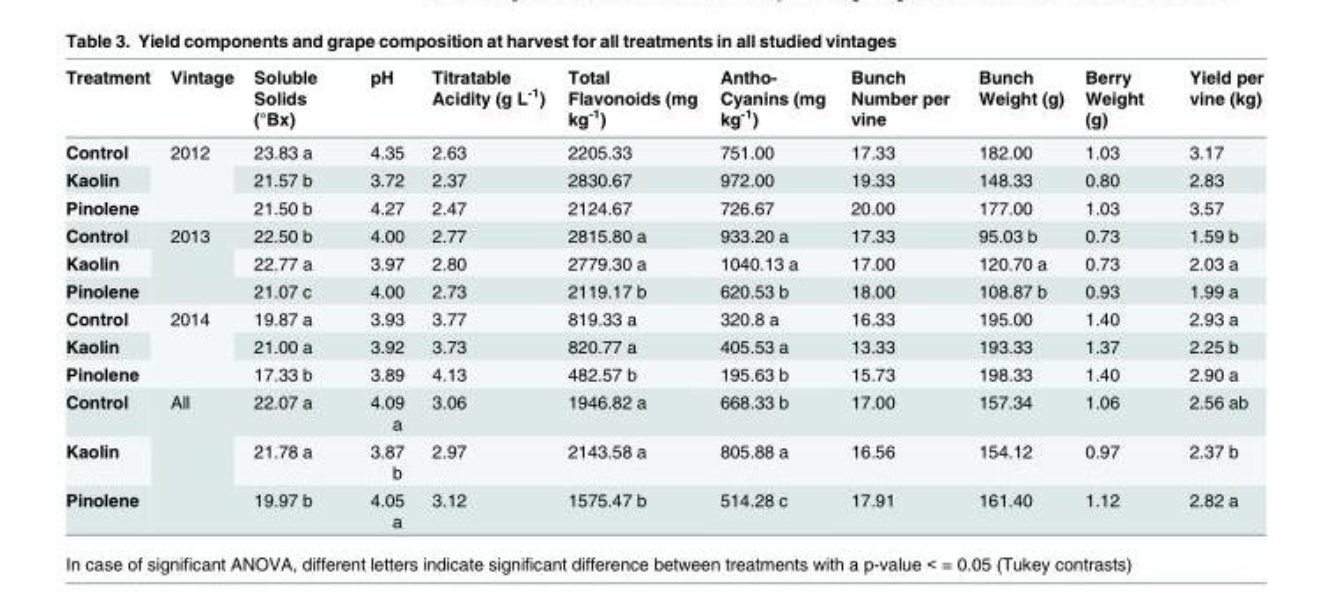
<table><thead><tr><td>Treatment</td><td>Vintage</td><td>Soluble Solids (°Bx)</td><td>pH</td><td>Titratable Acidity (g L<sup>-1</sup>)</td><td>Total Flavonoids (mg kg<sup>-1</sup>)</td><td>Antho- Cyanins (mg kg<sup>-1</sup>)</td><td>Bunch Number per vine</td><td>Bunch Weight (g)</td><td>Berry Weight (g)</td><td>Yield per vine (kg)</td></tr></thead><tbody><tr><td>Control</td><td rowspan="3">2012</td><td>23.83 a</td><td>4.35</td><td>2.63</td><td>2205.33</td><td>751.00</td><td>17.33</td><td>182.00</td><td>1.03</td><td>3.17</td></tr><tr><td>Kaolin</td><td>21.57 b</td><td>3.72</td><td>2.37</td><td>2830.67</td><td>972.00</td><td>19.33</td><td>148.33</td><td>0.80</td><td>2.83</td></tr><tr><td>Pinolene</td><td>21.50 b</td><td>4.27</td><td>2.47</td><td>2124.67</td><td>726.67</td><td>20.00</td><td>177.00</td><td>1.03</td><td>3.57</td></tr><tr><td>Control</td><td rowspan="3">2013</td><td>22.50 b</td><td>4.00</td><td>2.77</td><td>2815.80 a</td><td>933.20 a</td><td>17.33</td><td>95.03 b</td><td>0.73</td><td>1.59 b</td></tr><tr><td>Kaolin</td><td>22.77 a</td><td>3.97</td><td>2.80</td><td>2779.30 a</td><td>1040.13 a</td><td>17.00</td><td>120.70 a</td><td>0.73</td><td>2.03 a</td></tr><tr><td>Pinolene</td><td>21.07 c</td><td>4.00</td><td>2.73</td><td>2119.17 b</td><td>620.53 b</td><td>18.00</td><td>108.87 b</td><td>0.93</td><td>1.99 a</td></tr><tr><td>Control</td><td rowspan="3">2014</td><td>19.87 a</td><td>3.93</td><td>3.77</td><td>819.33 a</td><td>320.8 a</td><td>16.33</td><td>195.00</td><td>1.40</td><td>2.93 a</td></tr><tr><td>Kaolin</td><td>21.00 a</td><td>3.92</td><td>3.73</td><td>820.77 a</td><td>405.53 a</td><td>13.33</td><td>193.33</td><td>1.37</td><td>2.25 b</td></tr><tr><td>Pinolene</td><td>17.33 b</td><td>3.89</td><td>4.13</td><td>482.57 b</td><td>195.63 b</td><td>15.73</td><td>198.33</td><td>1.40</td><td>2.90 a</td></tr><tr><td>Control</td><td rowspan="3">All</td><td>22.07 a</td><td>4.09 a</td><td>3.06</td><td>1946.82 a</td><td>668.33 b</td><td>17.00</td><td>157.34</td><td>1.06</td><td>2.56 ab</td></tr><tr><td>Kaolin</td><td>21.78 a</td><td>3.87 b</td><td>2.97</td><td>2143.58 a</td><td>805.88 a</td><td>16.56</td><td>154.12</td><td>0.97</td><td>2.37 b</td></tr><tr><td>Pinolene</td><td>19.97 b</td><td>4.05 a</td><td>3.12</td><td>1575.47 b</td><td>514.28 c</td><td>17.91</td><td>161.40</td><td>1.12</td><td>2.82 a</td></tr></tbody></table>